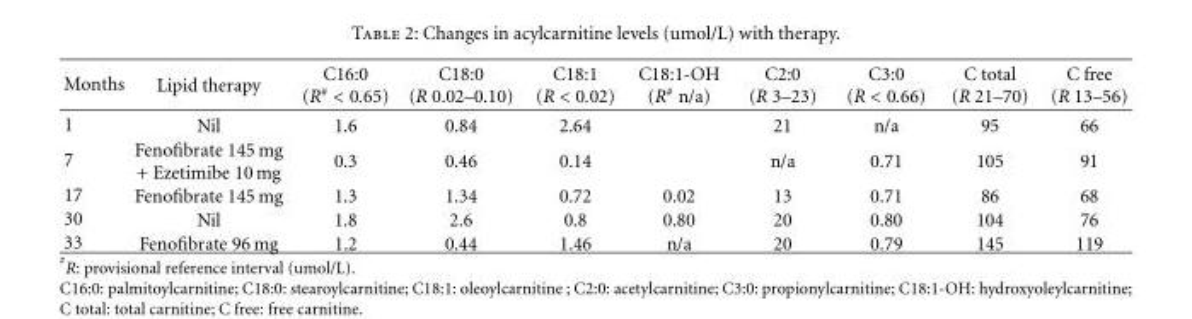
<table><thead><tr><td>Months</td><td>Lipid therapy</td><td>C16:0 (R<sup>#</sup> &lt; 0.65)</td><td>C18:0 (R 0.02–0.10)</td><td>C18:1 (R &lt; 0.02)</td><td>C18:1-OH (R<sup>#</sup> n/a)</td><td>C2:0 (R 3–23)</td><td>C3:0 (R &lt; 0.66)</td><td>C total (R 21–70)</td><td>C free (R 13–56)</td></tr></thead><tbody><tr><td>1</td><td>Nil</td><td>1.6</td><td>0.84</td><td>2.64</td><td></td><td>21</td><td>n/a</td><td>95</td><td>66</td></tr><tr><td>7</td><td>Fenofibrate 145 mg + Ezetimibe 10 mg</td><td>0.3</td><td>0.46</td><td>0.14</td><td></td><td>n/a</td><td>0.71</td><td>105</td><td>91</td></tr><tr><td>17</td><td>Fenofibrate 145 mg</td><td>1.3</td><td>1.34</td><td>0.72</td><td>0.02</td><td>13</td><td>0.71</td><td>86</td><td>68</td></tr><tr><td>30</td><td>Nil</td><td>1.8</td><td>2.6</td><td>0.8</td><td>0.80</td><td>20</td><td>0.80</td><td>104</td><td>76</td></tr><tr><td>33</td><td>Fenofibrate 96 mg</td><td>1.2</td><td>0.44</td><td>1.46</td><td>n/a</td><td>20</td><td>0.79</td><td>145</td><td>119</td></tr></tbody></table>